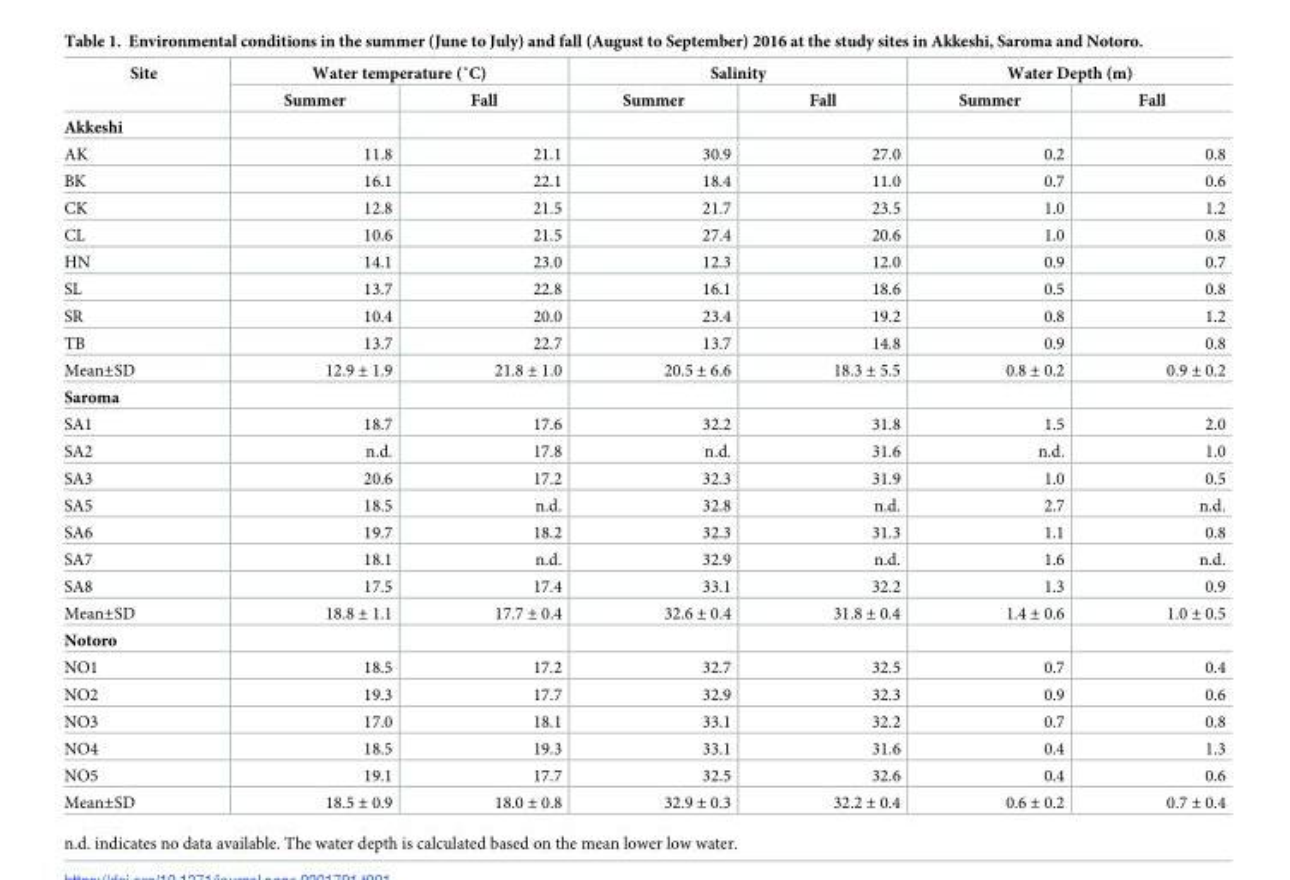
<table><thead><tr><td rowspan="2">Site</td><td colspan="2">Water temperature (˚C)</td><td colspan="2">Salinity</td><td colspan="2">Water Depth (m)</td></tr><tr><td>Summer</td><td>Fall</td><td>Summer</td><td>Fall</td><td>Summer</td><td>Fall</td></tr></thead><tbody><tr><td colspan="7">Akkeshi</td></tr><tr><td>AK</td><td>11.8</td><td>21.1</td><td>30.9</td><td>27.0</td><td>0.2</td><td>0.8</td></tr><tr><td>BK</td><td>16.1</td><td>22.1</td><td>18.4</td><td>11.0</td><td>0.7</td><td>0.6</td></tr><tr><td>CK</td><td>12.8</td><td>21.5</td><td>21.7</td><td>23.5</td><td>1.0</td><td>1.2</td></tr><tr><td>CL</td><td>10.6</td><td>21.5</td><td>27.4</td><td>20.6</td><td>1.0</td><td>0.8</td></tr><tr><td>HN</td><td>14.1</td><td>23.0</td><td>12.3</td><td>12.0</td><td>0.9</td><td>0.7</td></tr><tr><td>SL</td><td>13.7</td><td>22.8</td><td>16.1</td><td>18.6</td><td>0.5</td><td>0.8</td></tr><tr><td>SR</td><td>10.4</td><td>20.0</td><td>23.4</td><td>19.2</td><td>0.8</td><td>1.2</td></tr><tr><td>TB</td><td>13.7</td><td>22.7</td><td>13.7</td><td>14.8</td><td>0.9</td><td>0.8</td></tr><tr><td>Mean±SD</td><td>12.9 ± 1.9</td><td>21.8 ± 1.0</td><td>20.5 ± 6.6</td><td>18.3 ± 5.5</td><td>0.8 ± 0.2</td><td>0.9 ± 0.2</td></tr><tr><td colspan="7">Saroma</td></tr><tr><td>SA1</td><td>18.7</td><td>17.6</td><td>32.2</td><td>31.8</td><td>1.5</td><td>2.0</td></tr><tr><td>SA2</td><td>n.d.</td><td>17.8</td><td>n.d.</td><td>31.6</td><td>n.d.</td><td>1.0</td></tr><tr><td>SA3</td><td>20.6</td><td>17.2</td><td>32.3</td><td>31.9</td><td>1.0</td><td>0.5</td></tr><tr><td>SA5</td><td>18.5</td><td>n.d.</td><td>32.8</td><td>n.d.</td><td>2.7</td><td>n.d.</td></tr><tr><td>SA6</td><td>19.7</td><td>18.2</td><td>32.3</td><td>31.3</td><td>1.1</td><td>0.8</td></tr><tr><td>SA7</td><td>18.1</td><td>n.d.</td><td>32.9</td><td>n.d.</td><td>1.6</td><td>n.d.</td></tr><tr><td>SA8</td><td>17.5</td><td>17.4</td><td>33.1</td><td>32.2</td><td>1.3</td><td>0.9</td></tr><tr><td>Mean±SD</td><td>18.8 ± 1.1</td><td>17.7 ± 0.4</td><td>32.6 ± 0.4</td><td>31.8 ± 0.4</td><td>1.4 ± 0.6</td><td>1.0 ± 0.5</td></tr><tr><td colspan="7">Notoro</td></tr><tr><td>NO1</td><td>18.5</td><td>17.2</td><td>32.7</td><td>32.5</td><td>0.7</td><td>0.4</td></tr><tr><td>NO2</td><td>19.3</td><td>17.7</td><td>32.9</td><td>32.3</td><td>0.9</td><td>0.6</td></tr><tr><td>NO3</td><td>17.0</td><td>18.1</td><td>33.1</td><td>32.2</td><td>0.7</td><td>0.8</td></tr><tr><td>NO4</td><td>18.5</td><td>19.3</td><td>33.1</td><td>31.6</td><td>0.4</td><td>1.3</td></tr><tr><td>NO5</td><td>19.1</td><td>17.7</td><td>32.5</td><td>32.6</td><td>0.4</td><td>0.6</td></tr><tr><td>Mean±SD</td><td>18.5 ± 0.9</td><td>18.0 ± 0.8</td><td>32.9 ± 0.3</td><td>32.2 ± 0.4</td><td>0.6 ± 0.2</td><td>0.7 ± 0.4</td></tr></tbody></table>